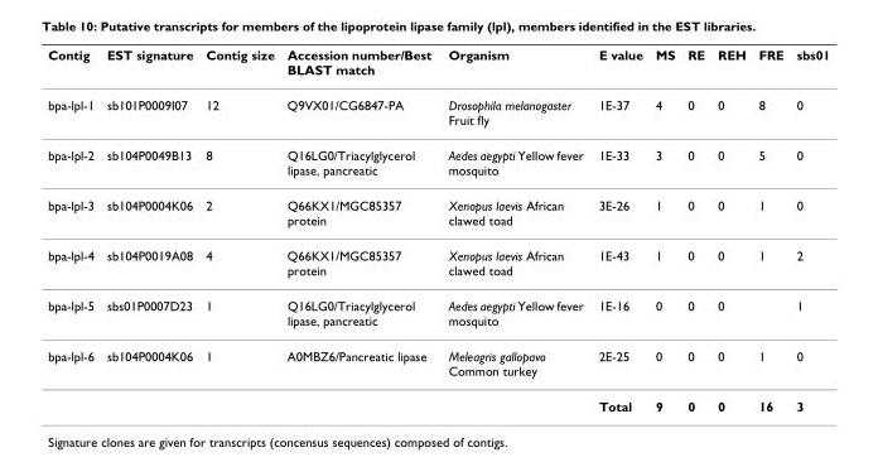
<table><thead><tr><td>Contig</td><td>EST signature</td><td>Contig size</td><td>Accession number/Best BLAST match</td><td>Organism</td><td>E value</td><td>MS</td><td>RE</td><td>REH</td><td>FRE</td><td>sbs01</td></tr></thead><tbody><tr><td>bpa-lpl-1</td><td>sb101P0009I07</td><td>12</td><td>Q9VX01/CG6847-PA</td><td>Drosophila melanogaster Fruit fly</td><td>1E-37</td><td>4</td><td>0</td><td>0</td><td>8</td><td>0</td></tr><tr><td>bpa-lpl-2</td><td>sb104P0049B13</td><td>8</td><td>Q16LG0/Triacylglycerol lipase, pancreatic</td><td>Aedes aegypti Yellow fever mosquito</td><td>1E-33</td><td>3</td><td>0</td><td>0</td><td>5</td><td>0</td></tr><tr><td>bpa-lpl-3</td><td>sb104P0004K06</td><td>2</td><td>Q66KX1/MGC85357 protein</td><td>Xenopus laevis African clawed toad</td><td>3E-26</td><td>1</td><td>0</td><td>0</td><td>1</td><td>0</td></tr><tr><td>bpa-lpl-4</td><td>sb104P0019A08</td><td>4</td><td>Q66KX1/MGC85357 protein</td><td>Xenopus laevis African clawed toad</td><td>1E-43</td><td>1</td><td>0</td><td>0</td><td>1</td><td>2</td></tr><tr><td>bpa-lpl-5</td><td>sbs01P0007D23</td><td>1</td><td>Q16LG0/Triacylglycerol lipase, pancreatic</td><td>Aedes aegypti Yellow fever mosquito</td><td>1E-16</td><td>0</td><td>0</td><td>0</td><td></td><td>1</td></tr><tr><td rowspan="2">bpa-lpl-6</td><td>sb104P0004K06</td><td>1</td><td>A0MBZ6/Pancreatic lipase</td><td>Meleagris gallopavo Common turkey</td><td>2E-25</td><td>0</td><td>0</td><td>0</td><td>1</td><td>0</td></tr><tr><td></td><td></td><td></td><td></td><td>Total</td><td>9</td><td>0</td><td>0</td><td>16</td><td>3</td></tr></tbody></table>